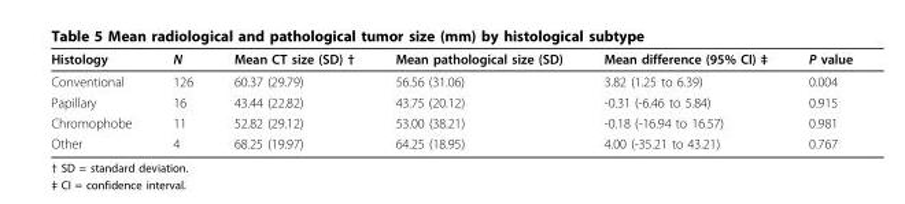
<table><thead><tr><td>Histology</td><td>N</td><td>Mean CT size (SD) †</td><td>Mean pathological size (SD)</td><td>Mean difference (95% CI) ‡</td><td>P value</td></tr></thead><tbody><tr><td>Conventional</td><td>126</td><td>60.37 (29.79)</td><td>56.56 (31.06)</td><td>3.82 (1.25 to 6.39)</td><td>0.004</td></tr><tr><td>Papillary</td><td>16</td><td>43.44 (22.82)</td><td>43.75 (20.12)</td><td>-0.31 (-6.46 to 5.84)</td><td>0.915</td></tr><tr><td>Chromophobe</td><td>11</td><td>52.82 (29.12)</td><td>53.00 (38.21)</td><td>-0.18 (-16.94 to 16.57)</td><td>0.981</td></tr><tr><td>Other</td><td>4</td><td>68.25 (19.97)</td><td>64.25 (18.95)</td><td>4.00 (-35.21 to 43.21)</td><td>0.767</td></tr></tbody></table>